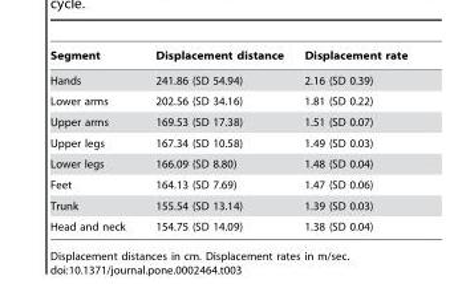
<table><thead><tr><td>Segment</td><td>Displacement distance</td><td>Displacement rate</td></tr></thead><tbody><tr><td>Hands</td><td>241.86 (SD 54.94)</td><td>2.16 (SD 0.39)</td></tr><tr><td>Lower arms</td><td>202.56 (SD 34.16)</td><td>1.81 (SD 0.22)</td></tr><tr><td>Upper arms</td><td>169.53 (SD 17.38)</td><td>1.51 (SD 0.07)</td></tr><tr><td>Upper legs</td><td>167.34 (SD 10.58)</td><td>1.49 (SD 0.03)</td></tr><tr><td>Lower legs</td><td>166.09 (SD 8.80)</td><td>1.48 (SD 0.04)</td></tr><tr><td>Feet</td><td>164.13 (SD 7.69)</td><td>1.47 (SD 0.06)</td></tr><tr><td>Trunk</td><td>155.54 (SD 13.14)</td><td>1.39 (SD 0.03)</td></tr><tr><td>Head and neck</td><td>154.75 (SD 14.09)</td><td>1.38 (SD 0.04)</td></tr></tbody></table>